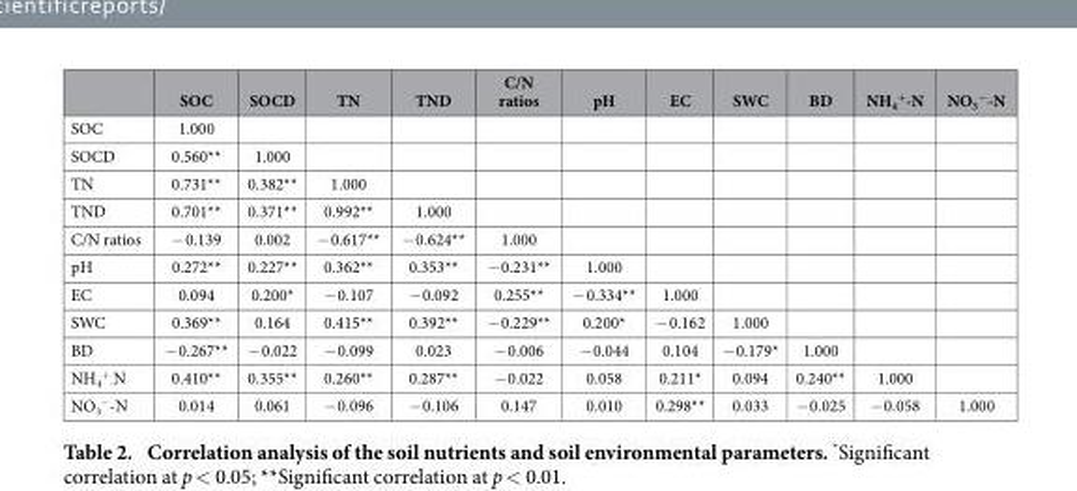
<table><thead><tr><td></td><td>SOC</td><td>SOCD</td><td>TN</td><td>TND</td><td>C/N ratios</td><td>pH</td><td>EC</td><td>SWC</td><td>BD</td><td>NH<sub>4</sub> <sup>+</sup>-N</td><td>NO<sub>3</sub> <sup>−</sup>-N</td></tr></thead><tbody><tr><td>SOC</td><td>1.000</td><td></td><td></td><td></td><td></td><td></td><td></td><td></td><td></td><td></td><td></td></tr><tr><td>SOCD</td><td>0.560**</td><td>1.000</td><td></td><td></td><td></td><td></td><td></td><td></td><td></td><td></td><td></td></tr><tr><td>TN</td><td>0.731**</td><td>0.382**</td><td>1.000</td><td></td><td></td><td></td><td></td><td></td><td></td><td></td><td></td></tr><tr><td>TND</td><td>0.701**</td><td>0.371**</td><td>0.992**</td><td>1.000</td><td></td><td></td><td></td><td></td><td></td><td></td><td></td></tr><tr><td>C/N ratios</td><td>− 0.139</td><td>0.002</td><td>− 0.617**</td><td>− 0.624**</td><td>1.000</td><td></td><td></td><td></td><td></td><td></td><td></td></tr><tr><td>pH</td><td>0.272**</td><td>0.227**</td><td>0.362**</td><td>0.353**</td><td>− 0.231**</td><td>1.000</td><td></td><td></td><td></td><td></td><td></td></tr><tr><td>EC</td><td>0.094</td><td>0.200*</td><td>− 0.107</td><td>− 0.092</td><td>0.255**</td><td>− 0.334**</td><td>1.000</td><td></td><td></td><td></td><td></td></tr><tr><td>SWC</td><td>0.369**</td><td>0.164</td><td>0.415**</td><td>0.392**</td><td>− 0.229**</td><td>0.200*</td><td>− 0.162</td><td>1.000</td><td></td><td></td><td></td></tr><tr><td>BD</td><td>− 0.267**</td><td>− 0.022</td><td>− 0.099</td><td>0.023</td><td>− 0.006</td><td>− 0.044</td><td>0.104</td><td>− 0.179*</td><td>1.000</td><td></td><td></td></tr><tr><td>NH<sub>4</sub> <sup>+</sup> <sub>-</sub>N</td><td>0.410**</td><td>0.355**</td><td>0.260**</td><td>0.287**</td><td>− 0.022</td><td>0.058</td><td>0.211*</td><td>0.094</td><td>0.240**</td><td>1.000</td><td></td></tr><tr><td>NO<sub>3</sub> <sup>−</sup>-N</td><td>0.014</td><td>0.061</td><td>− 0.096</td><td>− 0.106</td><td>0.147</td><td>0.010</td><td>0.298**</td><td>0.033</td><td>− 0.025</td><td>− 0.058</td><td>1.000</td></tr></tbody></table>